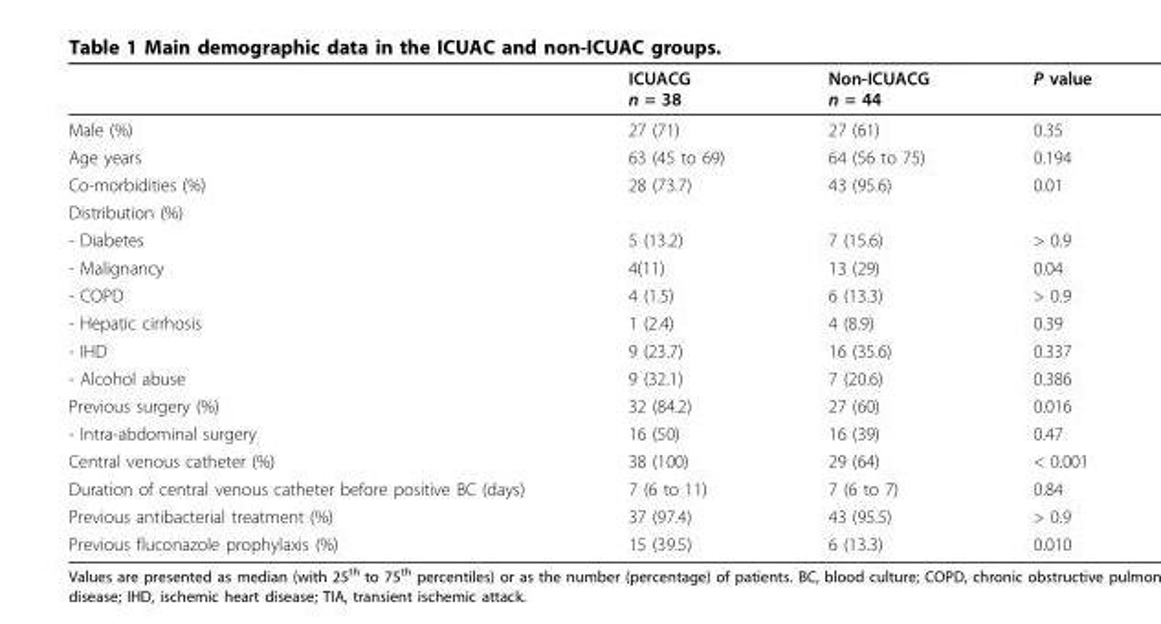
<table><thead><tr><td></td><td>ICUACG n = 38</td><td>Non-ICUACG n = 44</td><td>P value</td></tr></thead><tbody><tr><td>Male (%)</td><td>27 (71)</td><td>27 (61)</td><td>0.35</td></tr><tr><td>Age years</td><td>63 (45 to 69)</td><td>64 (56 to 75)</td><td>0.194</td></tr><tr><td>Co-morbidities (%)</td><td>28 (73.7)</td><td>43 (95.6)</td><td>0.01</td></tr><tr><td colspan="4">Distribution (%)</td></tr><tr><td>- Diabetes</td><td>5 (13.2)</td><td>7 (15.6)</td><td>&gt; 0.9</td></tr><tr><td>- Malignancy</td><td>4(11)</td><td>13 (29)</td><td>0.04</td></tr><tr><td>- COPD</td><td>4 (1.5)</td><td>6 (13.3)</td><td>&gt; 0.9</td></tr><tr><td>- Hepatic cirrhosis</td><td>1 (2.4)</td><td>4 (8.9)</td><td>0.39</td></tr><tr><td>- IHD</td><td>9 (23.7)</td><td>16 (35.6)</td><td>0.337</td></tr><tr><td>- Alcohol abuse</td><td>9 (32.1)</td><td>7 (20.6)</td><td>0.386</td></tr><tr><td>Previous surgery (%)</td><td>32 (84.2)</td><td>27 (60)</td><td>0.016</td></tr><tr><td>- Intra-abdominal surgery</td><td>16 (50)</td><td>16 (39)</td><td>0.47</td></tr><tr><td>Central venous catheter (%)</td><td>38 (100)</td><td>29 (64)</td><td>&lt; 0.001</td></tr><tr><td>Duration of central venous catheter before positive BC (days)</td><td>7 (6 to 11)</td><td>7 (6 to 7)</td><td>0.84</td></tr><tr><td>Previous antibacterial treatment (%)</td><td>37 (97.4)</td><td>43 (95.5)</td><td>&gt; 0.9</td></tr><tr><td>Previous fluconazole prophylaxis (%)</td><td>15 (39.5)</td><td>6 (13.3)</td><td>0.010</td></tr></tbody></table>